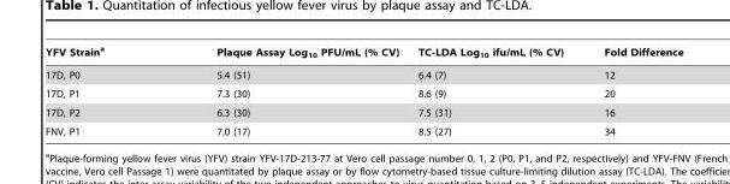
<table><thead><tr><td>YFV Strain<sup>a</sup></td><td>Plaque Assay Log<sub>10</sub> PFU/mL (% CV)</td><td>TC-LDA Log<sub>10</sub> ifu/mL (% CV)</td><td>Fold Difference</td></tr></thead><tbody><tr><td>17D, P0</td><td>5.4 (51)</td><td>6.4 (7)</td><td>12</td></tr><tr><td>17D, P1</td><td>7.3 (30)</td><td>8.6 (9)</td><td>20</td></tr><tr><td>17D, P2</td><td>6.3 (30)</td><td>7.5 (31)</td><td>16</td></tr><tr><td>FNV, P1</td><td>7.0 (17)</td><td>8.5 (27)</td><td>34</td></tr></tbody></table>